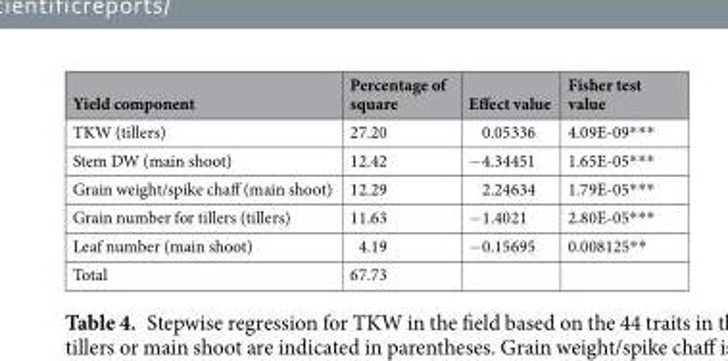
<table><thead><tr><td>Yield component</td><td>Percentage of square</td><td>Effect value</td><td>Fisher test value</td></tr></thead><tbody><tr><td>TKW (tillers)</td><td>27.20</td><td>0.05336</td><td>4.09E-09***</td></tr><tr><td>Stem DW (main shoot)</td><td>12.42</td><td>−4.34451</td><td>1.65E-05***</td></tr><tr><td>Grain weight/spike chaff (main shoot)</td><td>12.29</td><td>2.24634</td><td>1.79E-05***</td></tr><tr><td>Grain number for tillers (tillers)</td><td>11.63</td><td>−1.4021</td><td>2.80E-05***</td></tr><tr><td>Leaf number (main shoot)</td><td>4.19</td><td>−0.15695</td><td>0.008125**</td></tr><tr><td>Total</td><td>67.73</td><td></td><td></td></tr></tbody></table>